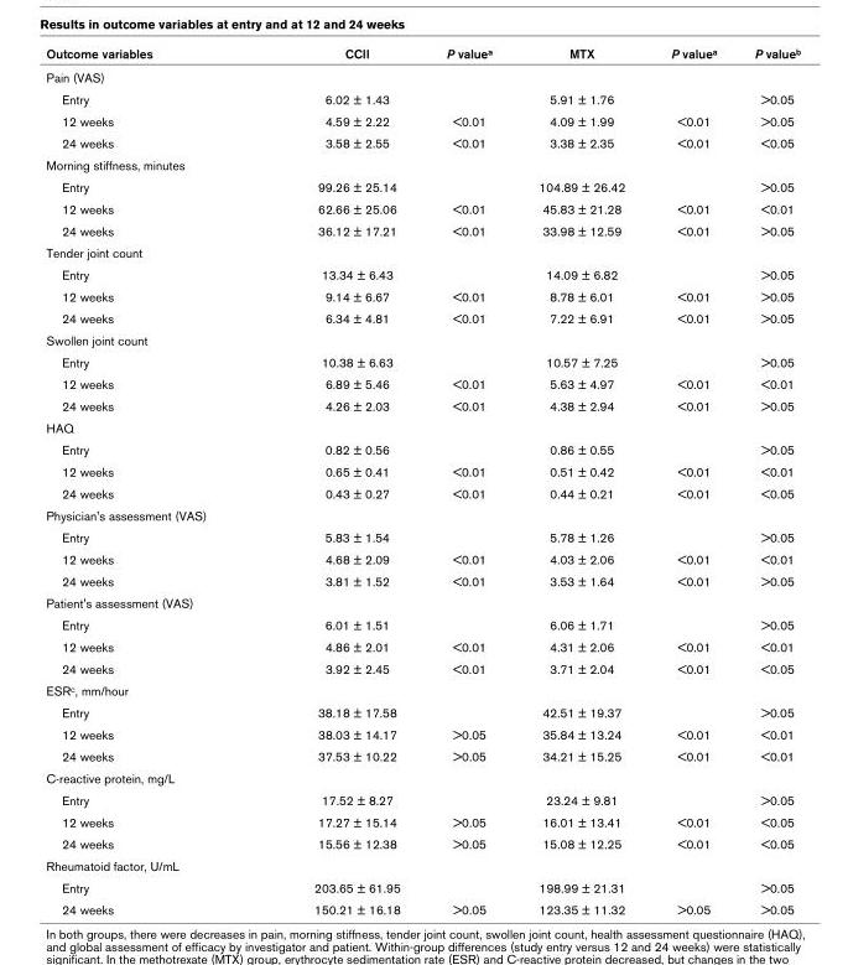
<table><thead><tr><td>Outcome variables</td><td>CCII</td><td>P value<sup>a</sup></td><td>MTX</td><td>P value<sup>a</sup></td><td>P value<sup>b</sup></td></tr></thead><tbody><tr><td colspan="6">Pain (VAS)</td></tr><tr><td>Entry</td><td>6.02 ± 1.43</td><td></td><td>5.91 ± 1.76</td><td></td><td>&gt;0.05</td></tr><tr><td>12 weeks</td><td>4.59 ± 2.22</td><td>&lt;0.01</td><td>4.09 ± 1.99</td><td>&lt;0.01</td><td>&gt;0.05</td></tr><tr><td>24 weeks</td><td>3.58 ± 2.55</td><td>&lt;0.01</td><td>3.38 ± 2.35</td><td>&lt;0.01</td><td>&lt;0.05</td></tr><tr><td colspan="6">Morning stiffness, minutes</td></tr><tr><td>Entry</td><td>99.26 ± 25.14</td><td></td><td>104.89 ± 26.42</td><td></td><td>&gt;0.05</td></tr><tr><td>12 weeks</td><td>62.66 ± 25.06</td><td>&lt;0.01</td><td>45.83 ± 21.28</td><td>&lt;0.01</td><td>&lt;0.01</td></tr><tr><td>24 weeks</td><td>36.12 ± 17.21</td><td>&lt;0.01</td><td>33.98 ± 12.59</td><td>&lt;0.01</td><td>&gt;0.05</td></tr><tr><td colspan="6">Tender joint count</td></tr><tr><td>Entry</td><td>13.34 ± 6.43</td><td></td><td>14.09 ± 6.82</td><td></td><td>&gt;0.05</td></tr><tr><td>12 weeks</td><td>9.14 ± 6.67</td><td>&lt;0.01</td><td>8.78 ± 6.01</td><td>&lt;0.01</td><td>&gt;0.05</td></tr><tr><td>24 weeks</td><td>6.34 ± 4.81</td><td>&lt;0.01</td><td>7.22 ± 6.91</td><td>&lt;0.01</td><td>&gt;0.05</td></tr><tr><td colspan="6">Swollen joint count</td></tr><tr><td>Entry</td><td>10.38 ± 6.63</td><td></td><td>10.57 ± 7.25</td><td></td><td>&gt;0.05</td></tr><tr><td>12 weeks</td><td>6.89 ± 5.46</td><td>&lt;0.01</td><td>5.63 ± 4.97</td><td>&lt;0.01</td><td>&lt;0.01</td></tr><tr><td>24 weeks</td><td>4.26 ± 2.03</td><td>&lt;0.01</td><td>4.38 ± 2.94</td><td>&lt;0.01</td><td>&gt;0.05</td></tr><tr><td colspan="6">HAQ</td></tr><tr><td>Entry</td><td>0.82 ± 0.56</td><td></td><td>0.86 ± 0.55</td><td></td><td>&gt;0.05</td></tr><tr><td>12 weeks</td><td>0.65 ± 0.41</td><td>&lt;0.01</td><td>0.51 ± 0.42</td><td>&lt;0.01</td><td>&lt;0.01</td></tr><tr><td>24 weeks</td><td>0.43 ± 0.27</td><td>&lt;0.01</td><td>0.44 ± 0.21</td><td>&lt;0.01</td><td>&lt;0.05</td></tr><tr><td colspan="6">Physician&#x27;s assessment (VAS)</td></tr><tr><td>Entry</td><td>5.83 ± 1.54</td><td></td><td>5.78 ± 1.26</td><td></td><td>&gt;0.05</td></tr><tr><td>12 weeks</td><td>4.68 ± 2.09</td><td>&lt;0.01</td><td>4.03 ± 2.06</td><td>&lt;0.01</td><td>&lt;0.01</td></tr><tr><td>24 weeks</td><td>3.81 ± 1.52</td><td>&lt;0.01</td><td>3.53 ± 1.64</td><td>&lt;0.01</td><td>&gt;0.05</td></tr><tr><td colspan="6">Patient&#x27;s assessment (VAS)</td></tr><tr><td>Entry</td><td>6.01 ± 1.51</td><td></td><td>6.06 ± 1.71</td><td></td><td>&gt;0.05</td></tr><tr><td>12 weeks</td><td>4.86 ± 2.01</td><td>&lt;0.01</td><td>4.31 ± 2.06</td><td>&lt;0.01</td><td>&lt;0.01</td></tr><tr><td>24 weeks</td><td>3.92 ± 2.45</td><td>&lt;0.01</td><td>3.71 ± 2.04</td><td>&lt;0.01</td><td>&lt;0.05</td></tr><tr><td colspan="6">ESR<sup>c</sup>, mm/hour</td></tr><tr><td>Entry</td><td>38.18 ± 17.58</td><td></td><td>42.51 ± 19.37</td><td></td><td>&gt;0.05</td></tr><tr><td>12 weeks</td><td>38.03 ± 14.17</td><td>&gt;0.05</td><td>35.84 ± 13.24</td><td>&lt;0.01</td><td>&lt;0.01</td></tr><tr><td>24 weeks</td><td>37.53 ± 10.22</td><td>&gt;0.05</td><td>34.21 ± 15.25</td><td>&lt;0.01</td><td>&lt;0.01</td></tr><tr><td colspan="6">C-reactive protein, mg/L</td></tr><tr><td>Entry</td><td>17.52 ± 8.27</td><td></td><td>23.24 ± 9.81</td><td></td><td>&gt;0.05</td></tr><tr><td>12 weeks</td><td>17.27 ± 15.14</td><td>&gt;0.05</td><td>16.01 ± 13.41</td><td>&lt;0.01</td><td>&lt;0.05</td></tr><tr><td>24 weeks</td><td>15.56 ± 12.38</td><td>&gt;0.05</td><td>15.08 ± 12.25</td><td>&lt;0.01</td><td>&lt;0.05</td></tr><tr><td colspan="6">Rheumatoid factor, U/mL</td></tr><tr><td>Entry</td><td>203.65 ± 61.95</td><td></td><td>198.99 ± 21.31</td><td></td><td>&gt;0.05</td></tr><tr><td>24 weeks</td><td>150.21 ± 16.18</td><td>&gt;0.05</td><td>123.35 ± 11.32</td><td>&gt;0.05</td><td>&gt;0.05</td></tr></tbody></table>